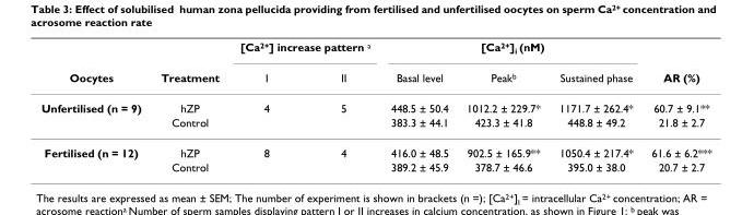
<table><thead><tr><td rowspan="2">Oocytes</td><td rowspan="2">Treatment</td><td colspan="2">[Ca<sup>2+</sup>] increase pattern <sup>a</sup></td><td colspan="3">[Ca<sup>2+</sup>]<sub>i</sub> (nM)</td><td rowspan="2">AR (%)</td></tr><tr><td>I</td><td>II</td><td>Basal level</td><td>Peak<sup>b</sup></td><td>Sustained phase</td></tr></thead><tbody><tr><td rowspan="2">Unfertilised (n = 9)</td><td>hZP</td><td>4</td><td>5</td><td>448.5 ± 50.4</td><td>1012.2 ± 229.7*</td><td>1171.7 ± 262.4*</td><td>60.7 ± 9.1**</td></tr><tr><td>Control</td><td></td><td></td><td>383.3 ± 44.1</td><td>423.3 ± 41.8</td><td>448.8 ± 49.2</td><td>21.8 ± 2.7</td></tr><tr><td rowspan="2">Fertilised (n = 12)</td><td>hZP</td><td>8</td><td>4</td><td>416.0 ± 48.5</td><td>902.5 ± 165.9**</td><td>1050.4 ± 217.4*</td><td>61.6 ± 6.2***</td></tr><tr><td>Control</td><td></td><td></td><td>389.2 ± 45.9</td><td>378.7 ± 46.6</td><td>395.0 ± 38.0</td><td>20.7 ± 2.7</td></tr></tbody></table>